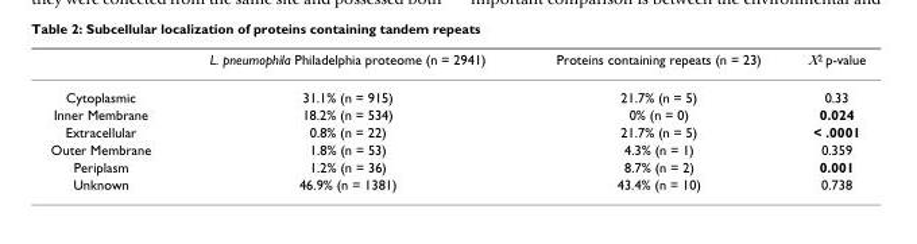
<table><thead><tr><td></td><td>L. pneumophila Philadelphia proteome (n = 2941)</td><td>Proteins containing repeats (n = 23)</td><td>Χ<sup>2</sup> p-value</td></tr></thead><tbody><tr><td>Cytoplasmic</td><td>31.1% (n = 915)</td><td>21.7% (n = 5)</td><td>0.33</td></tr><tr><td>Inner Membrane</td><td>18.2% (n = 534)</td><td>0% (n = 0)</td><td>0.024</td></tr><tr><td>Extracellular</td><td>0.8% (n = 22)</td><td>21.7% (n = 5)</td><td>&lt; .0001</td></tr><tr><td>Outer Membrane</td><td>1.8% (n = 53)</td><td>4.3% (n = 1)</td><td>0.359</td></tr><tr><td>Periplasm</td><td>1.2% (n = 36)</td><td>8.7% (n = 2)</td><td>0.001</td></tr><tr><td>Unknown</td><td>46.9% (n = 1381)</td><td>43.4% (n = 10)</td><td>0.738</td></tr></tbody></table>